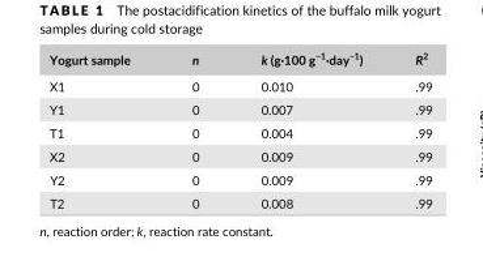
<table><thead><tr><td>Yogurt sample</td><td>n</td><td>k (g·100 g<sup>−1</sup>·day<sup>−1</sup>)</td><td>R<sup>2</sup></td></tr></thead><tbody><tr><td>X1</td><td>0</td><td>0.010</td><td>.99</td></tr><tr><td>Y1</td><td>0</td><td>0.007</td><td>.99</td></tr><tr><td>T1</td><td>0</td><td>0.004</td><td>.99</td></tr><tr><td>X2</td><td>0</td><td>0.009</td><td>.99</td></tr><tr><td>Y2</td><td>0</td><td>0.009</td><td>.99</td></tr><tr><td>T2</td><td>0</td><td>0.008</td><td>.99</td></tr></tbody></table>